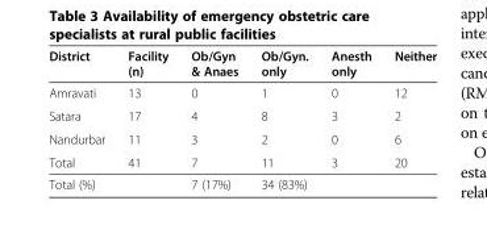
<table><thead><tr><td>District</td><td>Facility (n)</td><td>Ob/Gyn &amp; Anaes</td><td>Ob/Gyn. only</td><td>Anesth only</td><td>Neither</td></tr></thead><tbody><tr><td>Amravati</td><td>13</td><td>0</td><td>1</td><td>0</td><td>12</td></tr><tr><td>Satara</td><td>17</td><td>4</td><td>8</td><td>3</td><td>2</td></tr><tr><td>Nandurbar</td><td>11</td><td>3</td><td>2</td><td>0</td><td>6</td></tr><tr><td>Total</td><td>41</td><td>7</td><td>11</td><td>3</td><td>20</td></tr><tr><td>Total (%)</td><td></td><td>7 (17%)</td><td colspan="3">34 (83%)</td></tr></tbody></table>